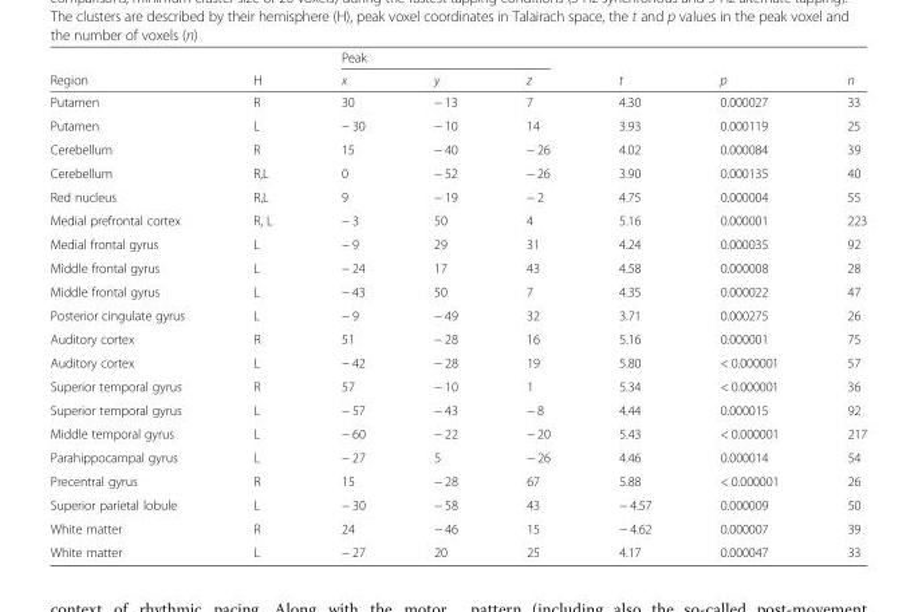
<table><thead><tr><td rowspan="2">Region</td><td rowspan="2">H</td><td colspan="3">Peak</td><td rowspan="2">t</td><td rowspan="2">p</td><td rowspan="2">n</td></tr><tr><td>x</td><td>y</td><td>z</td></tr></thead><tbody><tr><td>Putamen</td><td>R</td><td>30</td><td>− 13</td><td>7</td><td>4.30</td><td>0.000027</td><td>33</td></tr><tr><td>Putamen</td><td>L</td><td>− 30</td><td>− 10</td><td>14</td><td>3.93</td><td>0.000119</td><td>25</td></tr><tr><td>Cerebellum</td><td>R</td><td>15</td><td>− 40</td><td>− 26</td><td>4.02</td><td>0.000084</td><td>39</td></tr><tr><td>Cerebellum</td><td>R,L</td><td>0</td><td>− 52</td><td>− 26</td><td>3.90</td><td>0.000135</td><td>40</td></tr><tr><td>Red nucleus</td><td>R,L</td><td>9</td><td>− 19</td><td>− 2</td><td>4.75</td><td>0.000004</td><td>55</td></tr><tr><td>Medial prefrontal cortex</td><td>R, L</td><td>− 3</td><td>50</td><td>4</td><td>5.16</td><td>0.000001</td><td>223</td></tr><tr><td>Medial frontal gyrus</td><td>L</td><td>− 9</td><td>29</td><td>31</td><td>4.24</td><td>0.000035</td><td>92</td></tr><tr><td>Middle frontal gyrus</td><td>L</td><td>− 24</td><td>17</td><td>43</td><td>4.58</td><td>0.000008</td><td>28</td></tr><tr><td>Middle frontal gyrus</td><td>L</td><td>− 43</td><td>50</td><td>7</td><td>4.35</td><td>0.000022</td><td>47</td></tr><tr><td>Posterior cingulate gyrus</td><td>L</td><td>− 9</td><td>− 49</td><td>32</td><td>3.71</td><td>0.000275</td><td>26</td></tr><tr><td>Auditory cortex</td><td>R</td><td>51</td><td>− 28</td><td>16</td><td>5.16</td><td>0.000001</td><td>75</td></tr><tr><td>Auditory cortex</td><td>L</td><td>− 42</td><td>− 28</td><td>19</td><td>5.80</td><td>&lt; 0.000001</td><td>57</td></tr><tr><td>Superior temporal gyrus</td><td>R</td><td>57</td><td>− 10</td><td>1</td><td>5.34</td><td>&lt; 0.000001</td><td>36</td></tr><tr><td>Superior temporal gyrus</td><td>L</td><td>− 57</td><td>− 43</td><td>− 8</td><td>4.44</td><td>0.000015</td><td>92</td></tr><tr><td>Middle temporal gyrus</td><td>L</td><td>− 60</td><td>− 22</td><td>− 20</td><td>5.43</td><td>&lt; 0.000001</td><td>217</td></tr><tr><td>Parahippocampal gyrus</td><td>L</td><td>− 27</td><td>5</td><td>− 26</td><td>4.46</td><td>0.000014</td><td>54</td></tr><tr><td>Precentral gyrus</td><td>R</td><td>15</td><td>− 28</td><td>67</td><td>5.88</td><td>&lt; 0.000001</td><td>26</td></tr><tr><td>Superior parietal lobule</td><td>L</td><td>− 30</td><td>− 58</td><td>43</td><td>− 4.57</td><td>0.000009</td><td>50</td></tr><tr><td>White matter</td><td>R</td><td>24</td><td>− 46</td><td>15</td><td>− 4.62</td><td>0.000007</td><td>39</td></tr><tr><td>White matter</td><td>L</td><td>− 27</td><td>20</td><td>25</td><td>4.17</td><td>0.000047</td><td>33</td></tr></tbody></table>